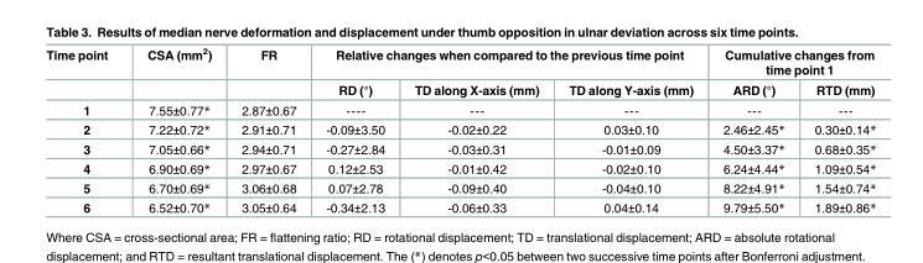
<table><thead><tr><td rowspan="2">Time point</td><td rowspan="2">CSA (mm<sup>2</sup>)</td><td rowspan="2">FR</td><td colspan="3">Relative changes when compared to the previous time point</td><td colspan="2">Cumulative changes from time point 1</td></tr><tr><td>RD (°)</td><td>TD along X-axis (mm)</td><td>TD along Y-axis (mm)</td><td>ARD (°)</td><td>RTD (mm)</td></tr></thead><tbody><tr><td>1</td><td>7.55±0.77*</td><td>2.87±0.67</td><td>----</td><td>---</td><td>---</td><td>---</td><td>---</td></tr><tr><td>2</td><td>7.22±0.72*</td><td>2.91±0.71</td><td>-0.09±3.50</td><td>-0.02±0.22</td><td>0.03±0.10</td><td>2.46±2.45*</td><td>0.30±0.14*</td></tr><tr><td>3</td><td>7.05±0.66*</td><td>2.94±0.71</td><td>-0.27±2.84</td><td>-0.03±0.31</td><td>-0.01±0.09</td><td>4.50±3.37*</td><td>0.68±0.35*</td></tr><tr><td>4</td><td>6.90±0.69*</td><td>2.97±0.67</td><td>0.12±2.53</td><td>-0.01±0.42</td><td>-0.02±0.10</td><td>6.24±4.44*</td><td>1.09±0.54*</td></tr><tr><td>5</td><td>6.70±0.69*</td><td>3.06±0.68</td><td>0.07±2.78</td><td>-0.09±0.40</td><td>-0.04±0.10</td><td>8.22±4.91*</td><td>1.54±0.74*</td></tr><tr><td>6</td><td>6.52±0.70*</td><td>3.05±0.64</td><td>-0.34±2.13</td><td>-0.06±0.33</td><td>0.04±0.14</td><td>9.79±5.50*</td><td>1.89±0.86*</td></tr></tbody></table>